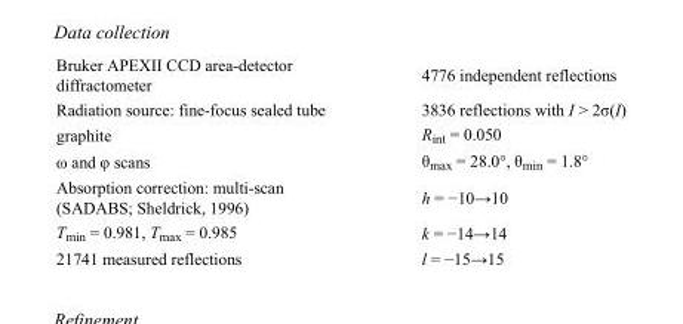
<table><tbody><tr><td>Bruker APEXII CCD area-detector diffractometer</td><td>4776 independent reflections</td></tr><tr><td>Radiation source: fine-focus sealed tube</td><td>3836 reflections with I &gt; 2σ(I)</td></tr><tr><td>graphite</td><td>R<sub>int</sub> = 0.050</td></tr><tr><td>ω and φ scans</td><td>θ<sub>max</sub> = 28.0°, θ<sub>min</sub> = 1.8°</td></tr><tr><td>Absorption correction: multi-scan (SADABS; Sheldrick, 1996)</td><td>h = −10→10</td></tr><tr><td>T<sub>min</sub> = 0.981, T<sub>max</sub> = 0.985</td><td>k = −14→14</td></tr><tr><td>21741 measured reflections</td><td>l = −15→15</td></tr></tbody></table>